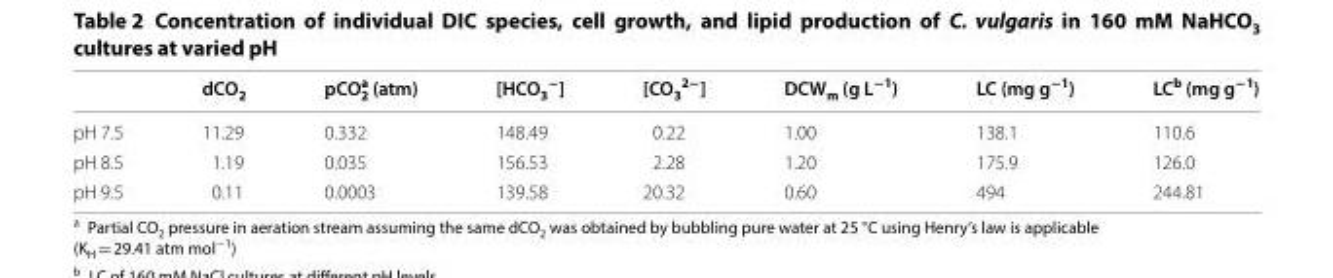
<table><thead><tr><td></td><td>dCO<sub>2</sub></td><td>pCO<sub>2</sub> <sup>a</sup> (atm)</td><td>[HCO<sub>3</sub> <sup>−</sup>]</td><td>[CO<sub>3</sub> <sup>2−</sup>]</td><td>DCW<sub>m</sub> (g L<sup>−1</sup>)</td><td>LC (mg g<sup>−1</sup>)</td><td>LC<sup>b</sup> (mg g<sup>−1</sup>)</td></tr></thead><tbody><tr><td>pH 7.5</td><td>11.29</td><td>0.332</td><td>148.49</td><td>0.22</td><td>1.00</td><td>138.1</td><td>110.6</td></tr><tr><td>pH 8.5</td><td>1.19</td><td>0.035</td><td>156.53</td><td>2.28</td><td>1.20</td><td>175.9</td><td>126.0</td></tr><tr><td>pH 9.5</td><td>0.11</td><td>0.0003</td><td>139.58</td><td>20.32</td><td>0.60</td><td>494</td><td>244.81</td></tr></tbody></table>